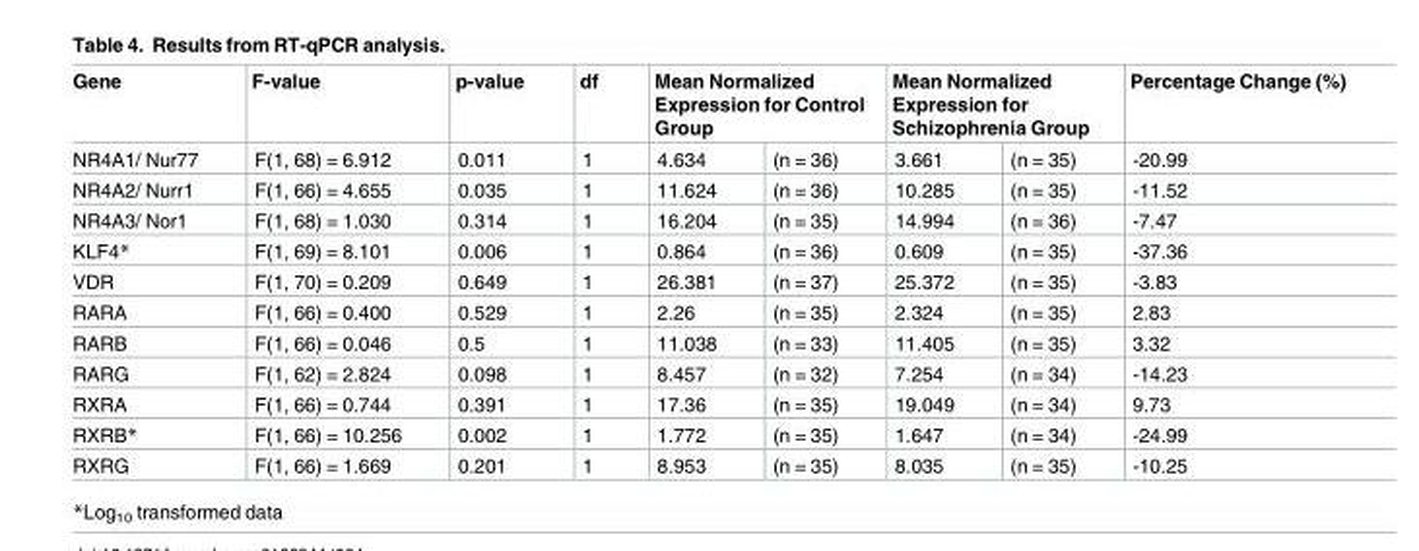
<table><thead><tr><td rowspan="2">Gene NR4A1/ Nur77</td><td rowspan="2">F-value F(1, 68) = 6.912</td><td rowspan="2">p-value 0.011</td><td rowspan="2">df 1</td><td colspan="2">Mean Normalized Expression for Control Group</td><td colspan="2">Mean Normalized Expression for Schizophrenia Group</td><td rowspan="2">Percentage Change (%) -20.99</td></tr><tr><td>4.634</td><td>(n = 36)</td><td>3.661</td><td>(n = 35)</td></tr></thead><tbody><tr><td>NR4A2/ Nurr1</td><td>F(1, 66) = 4.655</td><td>0.035</td><td>1</td><td>11.624</td><td>(n = 36)</td><td>10.285</td><td>(n = 35)</td><td>-11.52</td></tr><tr><td>NR4A3/ Nor1</td><td>F(1, 68) = 1.030</td><td>0.314</td><td>1</td><td>16.204</td><td>(n = 35)</td><td>14.994</td><td>(n = 36)</td><td>-7.47</td></tr><tr><td>KLF4*</td><td>F(1, 69) = 8.101</td><td>0.006</td><td>1</td><td>0.864</td><td>(n = 36)</td><td>0.609</td><td>(n = 35)</td><td>-37.36</td></tr><tr><td>VDR</td><td>F(1, 70) = 0.209</td><td>0.649</td><td>1</td><td>26.381</td><td>(n = 37)</td><td>25.372</td><td>(n = 35)</td><td>-3.83</td></tr><tr><td>RARA</td><td>F(1, 66) = 0.400</td><td>0.529</td><td>1</td><td>2.26</td><td>(n = 35)</td><td>2.324</td><td>(n = 35)</td><td>2.83</td></tr><tr><td>RARB</td><td>F(1, 66) = 0.046</td><td>0.5</td><td>1</td><td>11.038</td><td>(n = 33)</td><td>11.405</td><td>(n = 35)</td><td>3.32</td></tr><tr><td>RARG</td><td>F(1, 62) = 2.824</td><td>0.098</td><td>1</td><td>8.457</td><td>(n = 32)</td><td>7.254</td><td>(n = 34)</td><td>-14.23</td></tr><tr><td>RXRA</td><td>F(1, 66) = 0.744</td><td>0.391</td><td>1</td><td>17.36</td><td>(n = 35)</td><td>19.049</td><td>(n = 34)</td><td>9.73</td></tr><tr><td>RXRB*</td><td>F(1, 66) = 10.256</td><td>0.002</td><td>1</td><td>1.772</td><td>(n = 35)</td><td>1.647</td><td>(n = 34)</td><td>-24.99</td></tr><tr><td>RXRG</td><td>F(1, 66) = 1.669</td><td>0.201</td><td>1</td><td>8.953</td><td>(n = 35)</td><td>8.035</td><td>(n = 35)</td><td>-10.25</td></tr></tbody></table>